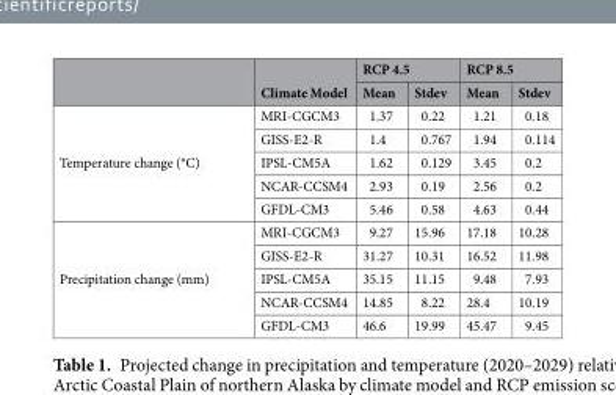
<table><thead><tr><td rowspan="2"></td><td rowspan="2">Climate Model</td><td colspan="2">RCP 4.5</td><td colspan="2">RCP 8.5</td></tr><tr><td>Mean</td><td>Stdev</td><td>Mean</td><td>Stdev</td></tr></thead><tbody><tr><td rowspan="5">Temperature change (°C)</td><td>MRI-CGCM3</td><td>1.37</td><td>0.22</td><td>1.21</td><td>0.18</td></tr><tr><td>GISS-E2-R</td><td>1.4</td><td>0.767</td><td>1.94</td><td>0.114</td></tr><tr><td>IPSL-CM5A</td><td>1.62</td><td>0.129</td><td>3.45</td><td>0.2</td></tr><tr><td>NCAR-CCSM4</td><td>2.93</td><td>0.19</td><td>2.56</td><td>0.2</td></tr><tr><td>GFDL-CM3</td><td>5.46</td><td>0.58</td><td>4.63</td><td>0.44</td></tr><tr><td rowspan="5">Precipitation change (mm)</td><td>MRI-CGCM3</td><td>9.27</td><td>15.96</td><td>17.18</td><td>10.28</td></tr><tr><td>GISS-E2-R</td><td>31.27</td><td>10.31</td><td>16.52</td><td>11.98</td></tr><tr><td>IPSL-CM5A</td><td>35.15</td><td>11.15</td><td>9.48</td><td>7.93</td></tr><tr><td>NCAR-CCSM4</td><td>14.85</td><td>8.22</td><td>28.4</td><td>10.19</td></tr><tr><td>GFDL-CM3</td><td>46.6</td><td>19.99</td><td>45.47</td><td>9.45</td></tr></tbody></table>